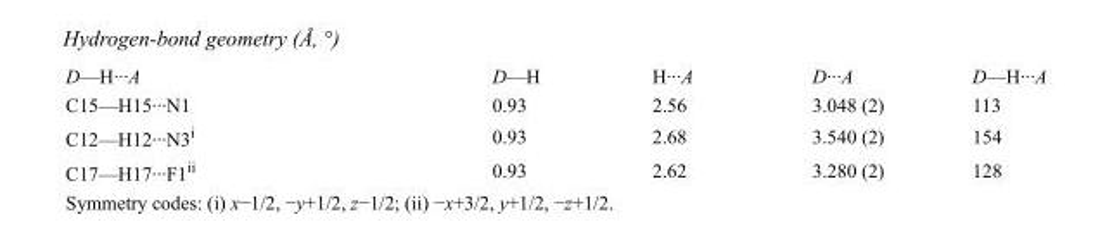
<table><tbody><tr><td>D—H···A</td><td>D—H</td><td>H···A</td><td>D···A</td><td>D—H···A</td></tr><tr><td>C15—H15···N1</td><td>0.93</td><td>2.56</td><td>3.048 (2)</td><td>113</td></tr><tr><td>C12—H12···N3<sup>i</sup></td><td>0.93</td><td>2.68</td><td>3.540 (2)</td><td>154</td></tr><tr><td>C17—H17···F1<sup>ii</sup></td><td>0.93</td><td>2.62</td><td>3.280 (2)</td><td>128</td></tr></tbody></table>